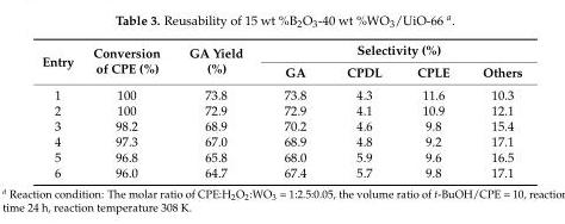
<table><thead><tr><td rowspan="2">Entry</td><td rowspan="2">Conversion of CPE (%)</td><td rowspan="2">GA Yield (%)</td><td colspan="4">Selectivity (%)</td></tr><tr><td>GA</td><td>CPDL</td><td>CPLE</td><td>Others</td></tr></thead><tbody><tr><td>1</td><td>100</td><td>73.8</td><td>73.8</td><td>4.3</td><td>11.6</td><td>10.3</td></tr><tr><td>2</td><td>100</td><td>72.9</td><td>72.9</td><td>4.1</td><td>10.9</td><td>12.1</td></tr><tr><td>3</td><td>98.2</td><td>68.9</td><td>70.2</td><td>4.6</td><td>9.8</td><td>15.4</td></tr><tr><td>4</td><td>97.3</td><td>67.0</td><td>68.9</td><td>4.8</td><td>9.2</td><td>17.1</td></tr><tr><td>5</td><td>96.8</td><td>65.8</td><td>68.0</td><td>5.9</td><td>9.6</td><td>16.5</td></tr><tr><td>6</td><td>96.0</td><td>64.7</td><td>67.4</td><td>5.7</td><td>9.8</td><td>17.1</td></tr></tbody></table>